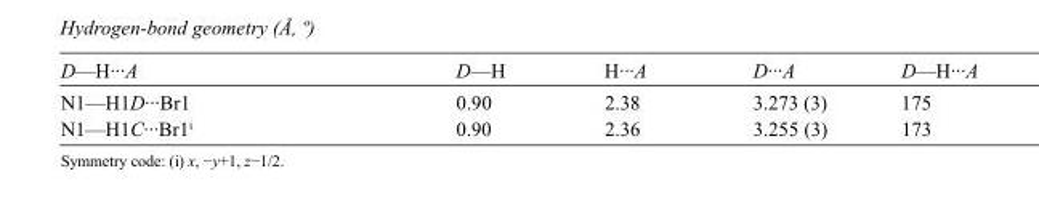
<table><tbody><tr><td>D—H···A</td><td>D—H</td><td>H···A</td><td>D···A</td><td>D—H···A</td></tr><tr><td>N1—H1D···Br1</td><td>0.90</td><td>2.38</td><td>3.273 (3)</td><td>175</td></tr><tr><td>N1—H1C···Br1<sup>i</sup></td><td>0.90</td><td>2.36</td><td>3.255 (3)</td><td>173</td></tr></tbody></table>